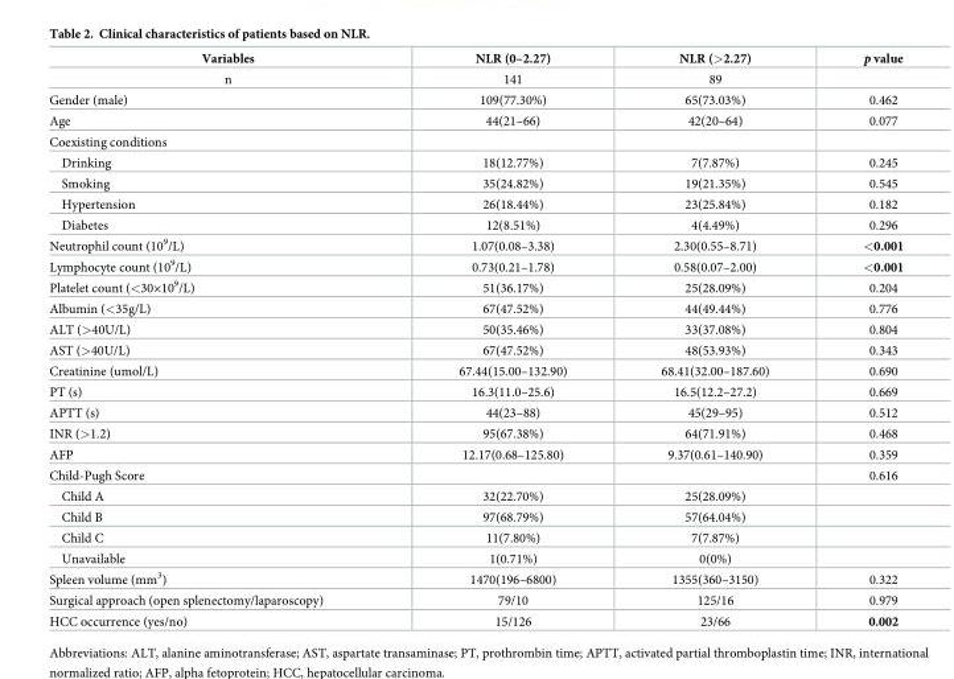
<table><thead><tr><td>Variables</td><td>NLR (0–2.27)</td><td>NLR (&gt;2.27)</td><td>p value</td></tr></thead><tbody><tr><td>n</td><td>141</td><td>89</td><td></td></tr><tr><td>Gender (male)</td><td>109(77.30%)</td><td>65(73.03%)</td><td>0.462</td></tr><tr><td>Age</td><td>44(21–66)</td><td>42(20–64)</td><td>0.077</td></tr><tr><td colspan="4">Coexisting conditions</td></tr><tr><td>Drinking</td><td>18(12.77%)</td><td>7(7.87%)</td><td>0.245</td></tr><tr><td>Smoking</td><td>35(24.82%)</td><td>19(21.35%)</td><td>0.545</td></tr><tr><td>Hypertension</td><td>26(18.44%)</td><td>23(25.84%)</td><td>0.182</td></tr><tr><td>Diabetes</td><td>12(8.51%)</td><td>4(4.49%)</td><td>0.296</td></tr><tr><td>Neutrophil count (10<sup>9</sup>/L)</td><td>1.07(0.08–3.38)</td><td>2.30(0.55–8.71)</td><td>&lt;0.001</td></tr><tr><td>Lymphocyte count (10<sup>9</sup>/L)</td><td>0.73(0.21–1.78)</td><td>0.58(0.07–2.00)</td><td>&lt;0.001</td></tr><tr><td>Platelet count (&lt;30×10<sup>9</sup>/L)</td><td>51(36.17%)</td><td>25(28.09%)</td><td>0.204</td></tr><tr><td>Albumin (&lt;35g/L)</td><td>67(47.52%)</td><td>44(49.44%)</td><td>0.776</td></tr><tr><td>ALT (&gt;40U/L)</td><td>50(35.46%)</td><td>33(37.08%)</td><td>0.804</td></tr><tr><td>AST (&gt;40U/L)</td><td>67(47.52%)</td><td>48(53.93%)</td><td>0.343</td></tr><tr><td>Creatinine (umol/L)</td><td>67.44(15.00–132.90)</td><td>68.41(32.00–187.60)</td><td>0.690</td></tr><tr><td>PT (s)</td><td>16.3(11.0–25.6)</td><td>16.5(12.2–27.2)</td><td>0.669</td></tr><tr><td>APTT (s)</td><td>44(23–88)</td><td>45(29–95)</td><td>0.512</td></tr><tr><td>INR (&gt;1.2)</td><td>95(67.38%)</td><td>64(71.91%)</td><td>0.468</td></tr><tr><td>AFP</td><td>12.17(0.68–125.80)</td><td>9.37(0.61–140.90)</td><td>0.359</td></tr><tr><td>Child-Pugh Score</td><td></td><td></td><td>0.616</td></tr><tr><td>Child A</td><td>32(22.70%)</td><td>25(28.09%)</td><td></td></tr><tr><td>Child B</td><td>97(68.79%)</td><td>57(64.04%)</td><td></td></tr><tr><td>Child C</td><td>11(7.80%)</td><td>7(7.87%)</td><td></td></tr><tr><td>Unavailable</td><td>1(0.71%)</td><td>0(0%)</td><td></td></tr><tr><td>Spleen volume (mm<sup>3</sup>)</td><td>1470(196–6800)</td><td>1355(360–3150)</td><td>0.322</td></tr><tr><td>Surgical approach (open splenectomy/laparoscopy)</td><td>79/10</td><td>125/16</td><td>0.979</td></tr><tr><td>HCC occurrence (yes/no)</td><td>15/126</td><td>23/66</td><td>0.002</td></tr></tbody></table>